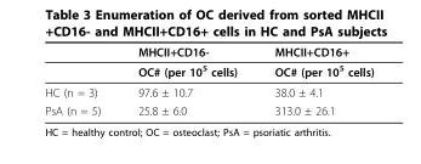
<table><thead><tr><td></td><td>MHCII+CD16-</td><td>MHCII+CD16+</td></tr></thead><tbody><tr><td></td><td>OC# (per 10<sup>5</sup> cells)</td><td>OC# (per 10<sup>5</sup> cells)</td></tr><tr><td>HC (n = 3)</td><td>97.6 ± 10.7</td><td>38.0 ± 4.1</td></tr><tr><td>PsA (n = 5)</td><td>25.8 ± 6.0</td><td>313.0 ± 26.1</td></tr></tbody></table>